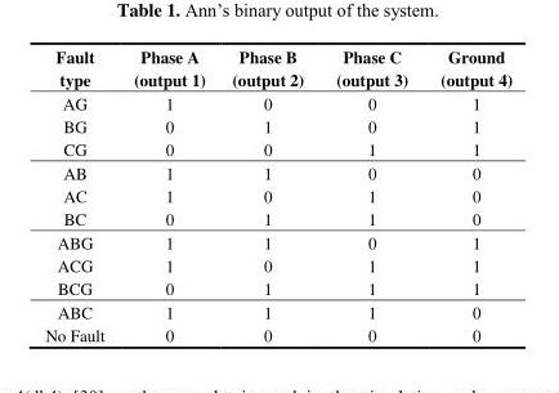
<table><thead><tr><td>Fault type</td><td>Phase A (output 1)</td><td>Phase B (output 2)</td><td>Phase C (output 3)</td><td>Ground (output 4)</td></tr></thead><tbody><tr><td>AG</td><td>1</td><td>0</td><td>0</td><td>1</td></tr><tr><td>BG</td><td>0</td><td>1</td><td>0</td><td>1</td></tr><tr><td>CG</td><td>0</td><td>0</td><td>1</td><td>1</td></tr><tr><td>AB</td><td>1</td><td>1</td><td>0</td><td>0</td></tr><tr><td>AC</td><td>1</td><td>0</td><td>1</td><td>0</td></tr><tr><td>BC</td><td>0</td><td>1</td><td>1</td><td>0</td></tr><tr><td>ABG</td><td>1</td><td>1</td><td>0</td><td>1</td></tr><tr><td>ACG</td><td>1</td><td>0</td><td>1</td><td>1</td></tr><tr><td>BCG</td><td>0</td><td>1</td><td>1</td><td>1</td></tr><tr><td>ABC</td><td>1</td><td>1</td><td>1</td><td>0</td></tr><tr><td>No Fault</td><td>0</td><td>0</td><td>0</td><td>0</td></tr></tbody></table>